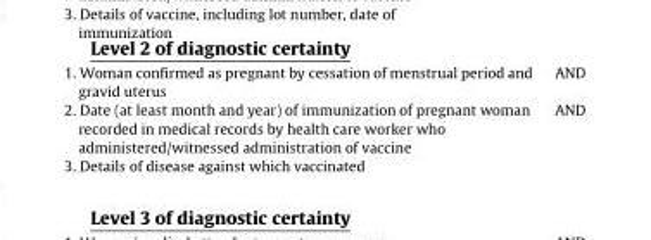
<table><tbody><tr><td>1. Woman confirmed as pregnant by cessation of menstrual period and gravid uterus</td><td>AND</td></tr><tr><td>2. Date (at least month and year) of immunization of pregnant woman recorded in medical records by health care worker who administered/witnessed administration of vaccine</td><td>AND</td></tr><tr><td>3. Details of disease against which vaccinated</td><td></td></tr></tbody></table>